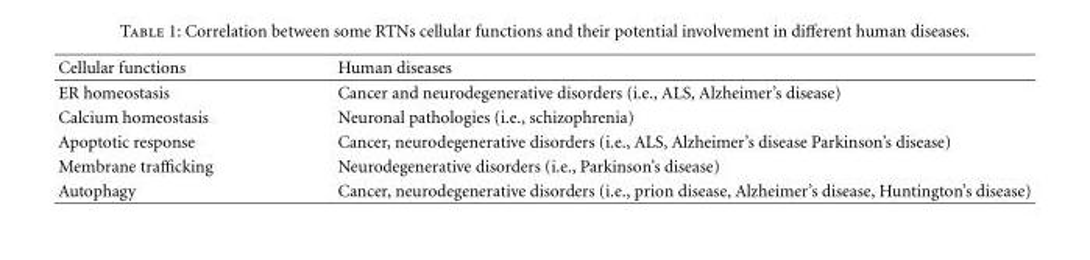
<table><thead><tr><td>Cellular functions</td><td>Human diseases</td></tr></thead><tbody><tr><td>ER homeostasis</td><td>Cancer and neurodegenerative disorders (i.e., ALS, Alzheimer’s disease)</td></tr><tr><td>Calcium homeostasis</td><td>Neuronal pathologies (i.e., schizophrenia)</td></tr><tr><td>Apoptotic response</td><td>Cancer, neurodegenerative disorders (i.e., ALS, Alzheimer’s disease Parkinson’s disease)</td></tr><tr><td>Membrane trafficking</td><td>Neurodegenerative disorders (i.e., Parkinson’s disease)</td></tr><tr><td>Autophagy</td><td>Cancer, neurodegenerative disorders (i.e., prion disease, Alzheimer’s disease, Huntington’s disease)</td></tr></tbody></table>